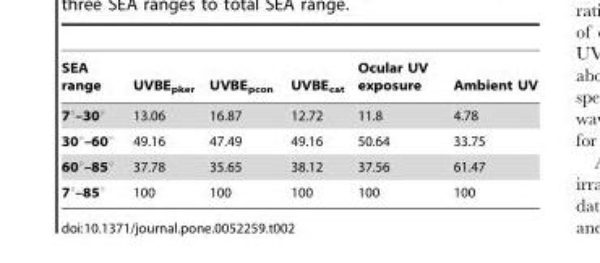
<table><thead><tr><td>SEA range</td><td>UVBE<sub>pker</sub></td><td>UVBE<sub>pcon</sub></td><td>UVBE<sub>cat</sub></td><td>Ocular UV exposure</td><td>Ambient UV</td></tr></thead><tbody><tr><td>7°–30°</td><td>13.06</td><td>16.87</td><td>12.72</td><td>11.8</td><td>4.78</td></tr><tr><td>30°–60°</td><td>49.16</td><td>47.49</td><td>49.16</td><td>50.64</td><td>33.75</td></tr><tr><td>60°–85°</td><td>37.78</td><td>35.65</td><td>38.12</td><td>37.56</td><td>61.47</td></tr><tr><td>7°–85°</td><td>100</td><td>100</td><td>100</td><td>100</td><td>100</td></tr></tbody></table>